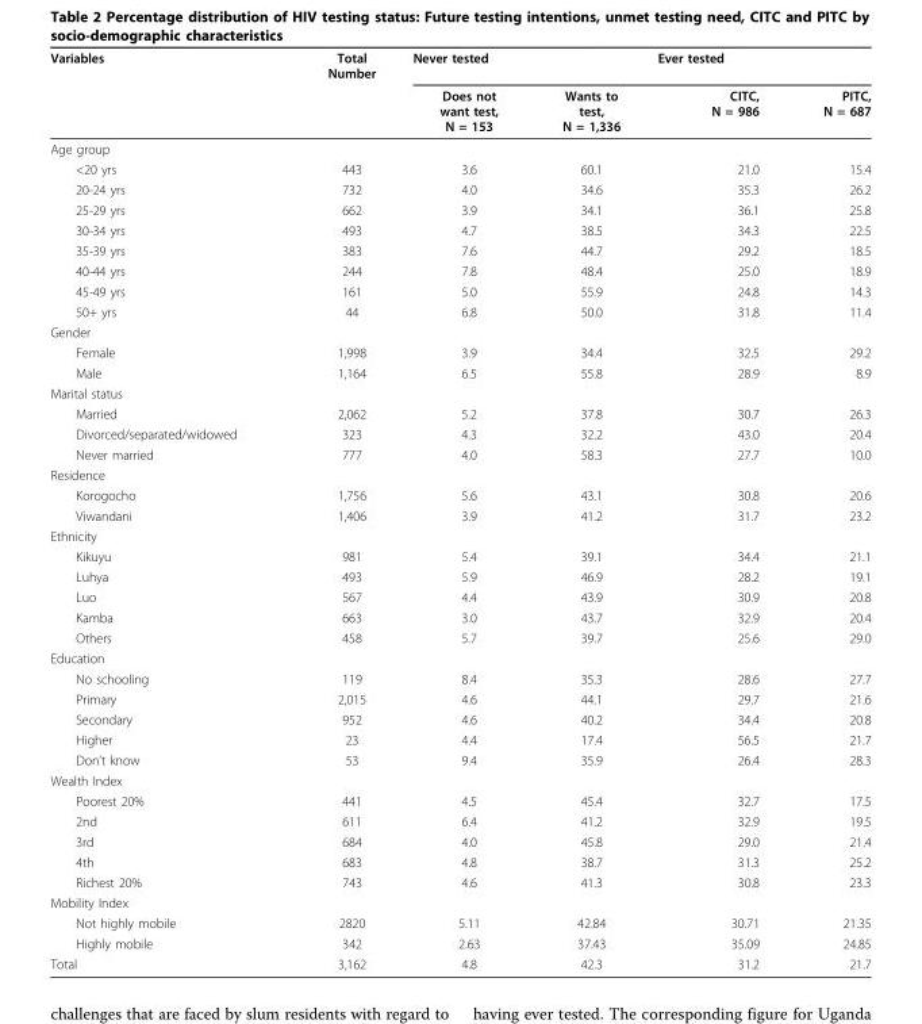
<table><thead><tr><td rowspan="2">Variables</td><td rowspan="2">Total Number</td><td colspan="2">Never tested</td><td colspan="2">Ever tested</td></tr><tr><td>Does not want test, N = 153</td><td>Wants to test, N = 1,336</td><td>CITC, N = 986</td><td>PITC, N = 687</td></tr></thead><tbody><tr><td colspan="6">Age group</td></tr><tr><td>&lt;20 yrs</td><td>443</td><td>3.6</td><td>60.1</td><td>21.0</td><td>15.4</td></tr><tr><td>20-24 yrs</td><td>732</td><td>4.0</td><td>34.6</td><td>35.3</td><td>26.2</td></tr><tr><td>25-29 yrs</td><td>662</td><td>3.9</td><td>34.1</td><td>36.1</td><td>25.8</td></tr><tr><td>30-34 yrs</td><td>493</td><td>4.7</td><td>38.5</td><td>34.3</td><td>22.5</td></tr><tr><td>35-39 yrs</td><td>383</td><td>7.6</td><td>44.7</td><td>29.2</td><td>18.5</td></tr><tr><td>40-44 yrs</td><td>244</td><td>7.8</td><td>48.4</td><td>25.0</td><td>18.9</td></tr><tr><td>45-49 yrs</td><td>161</td><td>5.0</td><td>55.9</td><td>24.8</td><td>14.3</td></tr><tr><td>50+ yrs</td><td>44</td><td>6.8</td><td>50.0</td><td>31.8</td><td>11.4</td></tr><tr><td colspan="6">Gender</td></tr><tr><td>Female</td><td>1,998</td><td>3.9</td><td>34.4</td><td>32.5</td><td>29.2</td></tr><tr><td>Male</td><td>1,164</td><td>6.5</td><td>55.8</td><td>28.9</td><td>8.9</td></tr><tr><td colspan="6">Marital status</td></tr><tr><td>Married</td><td>2,062</td><td>5.2</td><td>37.8</td><td>30.7</td><td>26.3</td></tr><tr><td>Divorced/separated/widowed</td><td>323</td><td>4.3</td><td>32.2</td><td>43.0</td><td>20.4</td></tr><tr><td>Never married</td><td>777</td><td>4.0</td><td>58.3</td><td>27.7</td><td>10.0</td></tr><tr><td colspan="6">Residence</td></tr><tr><td>Korogocho</td><td>1,756</td><td>5.6</td><td>43.1</td><td>30.8</td><td>20.6</td></tr><tr><td>Viwandani</td><td>1,406</td><td>3.9</td><td>41.2</td><td>31.7</td><td>23.2</td></tr><tr><td colspan="6">Ethnicity</td></tr><tr><td>Kikuyu</td><td>981</td><td>5.4</td><td>39.1</td><td>34.4</td><td>21.1</td></tr><tr><td>Luhya</td><td>493</td><td>5.9</td><td>46.9</td><td>28.2</td><td>19.1</td></tr><tr><td>Luo</td><td>567</td><td>4.4</td><td>43.9</td><td>30.9</td><td>20.8</td></tr><tr><td>Kamba</td><td>663</td><td>3.0</td><td>43.7</td><td>32.9</td><td>20.4</td></tr><tr><td>Others</td><td>458</td><td>5.7</td><td>39.7</td><td>25.6</td><td>29.0</td></tr><tr><td colspan="6">Education</td></tr><tr><td>No schooling</td><td>119</td><td>8.4</td><td>35.3</td><td>28.6</td><td>27.7</td></tr><tr><td>Primary</td><td>2,015</td><td>4.6</td><td>44.1</td><td>29.7</td><td>21.6</td></tr><tr><td>Secondary</td><td>952</td><td>4.6</td><td>40.2</td><td>34.4</td><td>20.8</td></tr><tr><td>Higher</td><td>23</td><td>4.4</td><td>17.4</td><td>56.5</td><td>21.7</td></tr><tr><td>Don’t know</td><td>53</td><td>9.4</td><td>35.9</td><td>26.4</td><td>28.3</td></tr><tr><td colspan="6">Wealth Index</td></tr><tr><td>Poorest 20%</td><td>441</td><td>4.5</td><td>45.4</td><td>32.7</td><td>17.5</td></tr><tr><td>2nd</td><td>611</td><td>6.4</td><td>41.2</td><td>32.9</td><td>19.5</td></tr><tr><td>3rd</td><td>684</td><td>4.0</td><td>45.8</td><td>29.0</td><td>21.4</td></tr><tr><td>4th</td><td>683</td><td>4.8</td><td>38.7</td><td>31.3</td><td>25.2</td></tr><tr><td>Richest 20%</td><td>743</td><td>4.6</td><td>41.3</td><td>30.8</td><td>23.3</td></tr><tr><td colspan="6">Mobility Index</td></tr><tr><td>Not highly mobile</td><td>2820</td><td>5.11</td><td>42.84</td><td>30.71</td><td>21.35</td></tr><tr><td>Highly mobile</td><td>342</td><td>2.63</td><td>37.43</td><td>35.09</td><td>24.85</td></tr><tr><td>Total</td><td>3,162</td><td>4.8</td><td>42.3</td><td>31.2</td><td>21.7</td></tr></tbody></table>